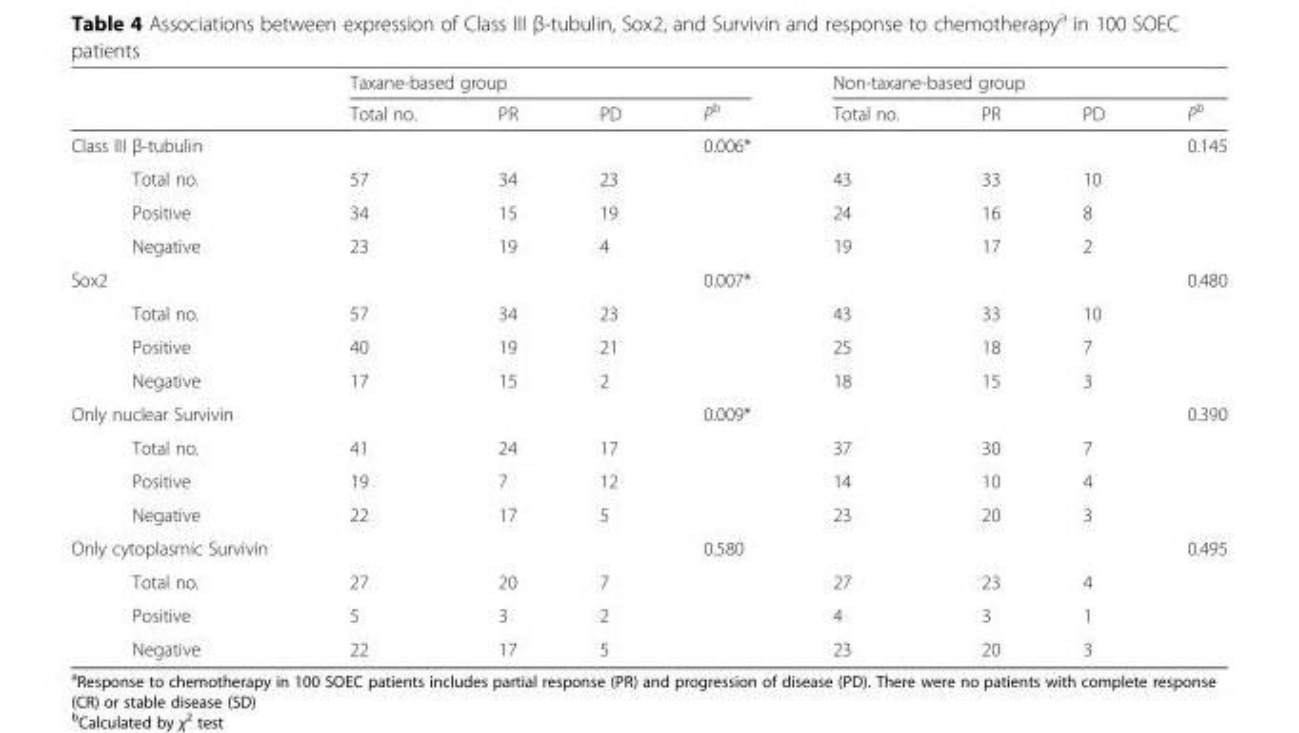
<table><thead><tr><td rowspan="2"></td><td colspan="4">Taxane-based group</td><td colspan="4">Non-taxane-based group</td></tr><tr><td>Total no.</td><td>PR</td><td>PD</td><td>P<sup>b</sup></td><td>Total no.</td><td>PR</td><td>PD</td><td>P<sup>b</sup></td></tr></thead><tbody><tr><td>Class III β-tubulin</td><td></td><td></td><td></td><td>0.006*</td><td></td><td></td><td></td><td>0.145</td></tr><tr><td>Total no.</td><td>57</td><td>34</td><td>23</td><td></td><td>43</td><td>33</td><td>10</td><td></td></tr><tr><td>Positive</td><td>34</td><td>15</td><td>19</td><td></td><td>24</td><td>16</td><td>8</td><td></td></tr><tr><td>Negative</td><td>23</td><td>19</td><td>4</td><td></td><td>19</td><td>17</td><td>2</td><td></td></tr><tr><td>Sox2</td><td></td><td></td><td></td><td>0.007*</td><td></td><td></td><td></td><td>0.480</td></tr><tr><td>Total no.</td><td>57</td><td>34</td><td>23</td><td></td><td>43</td><td>33</td><td>10</td><td></td></tr><tr><td>Positive</td><td>40</td><td>19</td><td>21</td><td></td><td>25</td><td>18</td><td>7</td><td></td></tr><tr><td>Negative</td><td>17</td><td>15</td><td>2</td><td></td><td>18</td><td>15</td><td>3</td><td></td></tr><tr><td>Only nuclear Survivin</td><td></td><td></td><td></td><td>0.009*</td><td></td><td></td><td></td><td>0.390</td></tr><tr><td>Total no.</td><td>41</td><td>24</td><td>17</td><td></td><td>37</td><td>30</td><td>7</td><td></td></tr><tr><td>Positive</td><td>19</td><td>7</td><td>12</td><td></td><td>14</td><td>10</td><td>4</td><td></td></tr><tr><td>Negative</td><td>22</td><td>17</td><td>5</td><td></td><td>23</td><td>20</td><td>3</td><td></td></tr><tr><td>Only cytoplasmic Survivin</td><td></td><td></td><td></td><td>0.580</td><td></td><td></td><td></td><td>0.495</td></tr><tr><td>Total no.</td><td>27</td><td>20</td><td>7</td><td></td><td>27</td><td>23</td><td>4</td><td></td></tr><tr><td>Positive</td><td>5</td><td>3</td><td>2</td><td></td><td>4</td><td>3</td><td>1</td><td></td></tr><tr><td>Negative</td><td>22</td><td>17</td><td>5</td><td></td><td>23</td><td>20</td><td>3</td><td></td></tr></tbody></table>